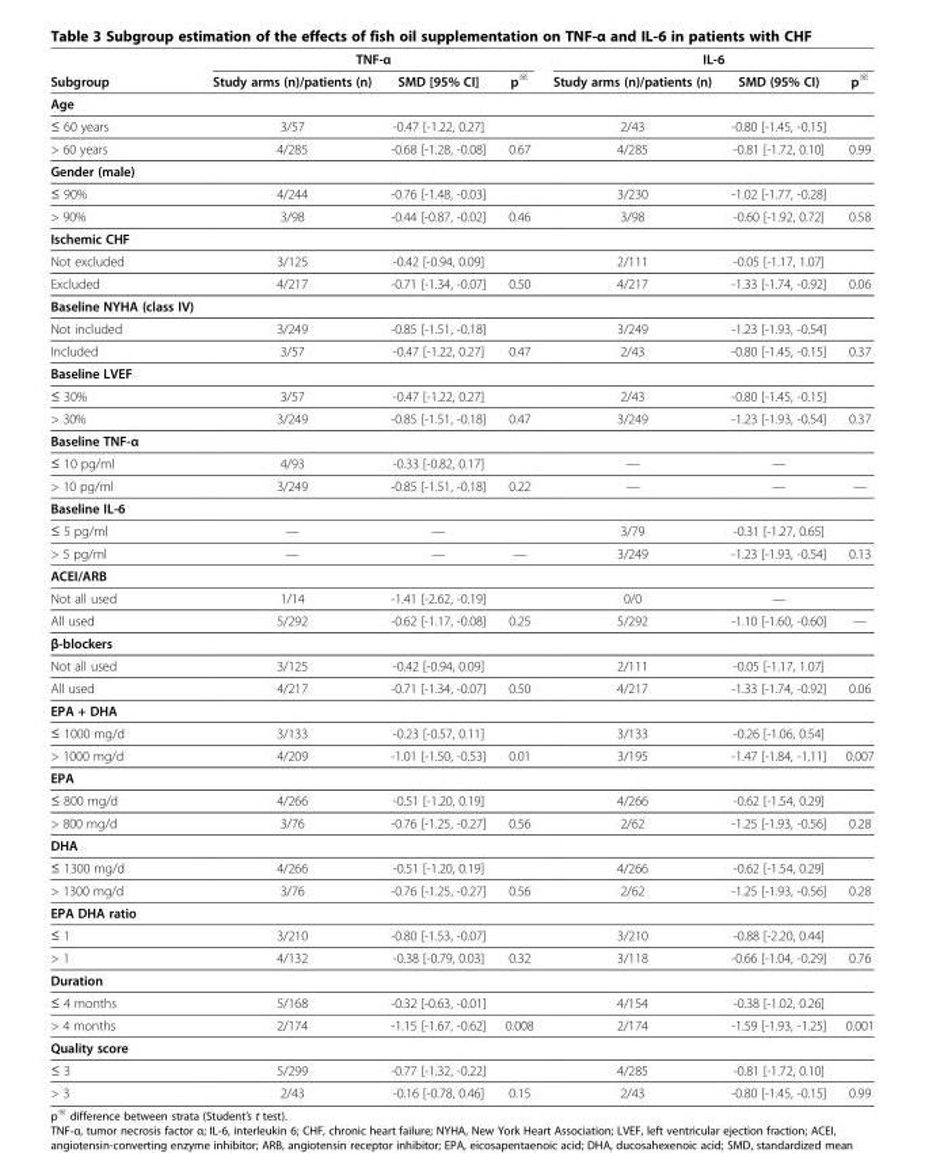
<table><thead><tr><td rowspan="2">Subgroup</td><td colspan="3">TNF-α</td><td colspan="3">IL-6</td></tr><tr><td>Study arms (n)/patients (n)</td><td>SMD [95% CI]</td><td>p<sup>※</sup></td><td>Study arms (n)/patients (n)</td><td>SMD (95% CI)</td><td>p<sup>※</sup></td></tr></thead><tbody><tr><td colspan="7">Age</td></tr><tr><td>≤ 60 years</td><td>3/57</td><td>-0.47 [-1.22, 0.27]</td><td></td><td>2/43</td><td>-0.80 [-1.45, -0.15]</td><td></td></tr><tr><td>&gt; 60 years</td><td>4/285</td><td>-0.68 [-1.28, -0.08]</td><td>0.67</td><td>4/285</td><td>-0.81 [-1.72, 0.10]</td><td>0.99</td></tr><tr><td colspan="7">Gender (male)</td></tr><tr><td>≤ 90%</td><td>4/244</td><td>-0.76 [-1.48, -0.03]</td><td></td><td>3/230</td><td>-1.02 [-1.77, -0.28]</td><td></td></tr><tr><td>&gt; 90%</td><td>3/98</td><td>-0.44 [-0.87, -0.02]</td><td>0.46</td><td>3/98</td><td>-0.60 [-1.92, 0.72]</td><td>0.58</td></tr><tr><td colspan="7">Ischemic CHF</td></tr><tr><td>Not excluded</td><td>3/125</td><td>-0.42 [-0.94, 0.09]</td><td></td><td>2/111</td><td>-0.05 [-1.17, 1.07]</td><td></td></tr><tr><td>Excluded</td><td>4/217</td><td>-0.71 [-1.34, -0.07]</td><td>0.50</td><td>4/217</td><td>-1.33 [-1.74, -0.92]</td><td>0.06</td></tr><tr><td colspan="7">Baseline NYHA (class IV)</td></tr><tr><td>Not included</td><td>3/249</td><td>-0.85 [-1.51, -0.18]</td><td></td><td>3/249</td><td>-1.23 [-1.93, -0.54]</td><td></td></tr><tr><td>Included</td><td>3/57</td><td>-0.47 [-1.22, 0.27]</td><td>0.47</td><td>2/43</td><td>-0.80 [-1.45, -0.15]</td><td>0.37</td></tr><tr><td colspan="7">Baseline LVEF</td></tr><tr><td>≤ 30%</td><td>3/57</td><td>-0.47 [-1.22, 0.27]</td><td></td><td>2/43</td><td>-0.80 [-1.45, -0.15]</td><td></td></tr><tr><td>&gt; 30%</td><td>3/249</td><td>-0.85 [-1.51, -0.18]</td><td>0.47</td><td>3/249</td><td>-1.23 [-1.93, -0.54]</td><td>0.37</td></tr><tr><td colspan="7">Baseline TNF-α</td></tr><tr><td>≤ 10 pg/ml</td><td>4/93</td><td>-0.33 [-0.82, 0.17]</td><td></td><td>—</td><td>—</td><td></td></tr><tr><td>&gt; 10 pg/ml</td><td>3/249</td><td>-0.85 [-1.51, -0.18]</td><td>0.22</td><td>—</td><td>—</td><td>—</td></tr><tr><td colspan="7">Baseline IL-6</td></tr><tr><td>≤ 5 pg/ml</td><td>—</td><td>—</td><td></td><td>3/79</td><td>-0.31 [-1.27, 0.65]</td><td></td></tr><tr><td>&gt; 5 pg/ml</td><td>—</td><td>—</td><td>—</td><td>3/249</td><td>-1.23 [-1.93, -0.54]</td><td>0.13</td></tr><tr><td colspan="7">ACEI/ARB</td></tr><tr><td>Not all used</td><td>1/14</td><td>-1.41 [-2.62, -0.19]</td><td></td><td>0/0</td><td>—</td><td></td></tr><tr><td>All used</td><td>5/292</td><td>-0.62 [-1.17, -0.08]</td><td>0.25</td><td>5/292</td><td>-1.10 [-1.60, -0.60]</td><td>—</td></tr><tr><td colspan="7">β-blockers</td></tr><tr><td>Not all used</td><td>3/125</td><td>-0.42 [-0.94, 0.09]</td><td></td><td>2/111</td><td>-0.05 [-1.17, 1.07]</td><td></td></tr><tr><td>All used</td><td>4/217</td><td>-0.71 [-1.34, -0.07]</td><td>0.50</td><td>4/217</td><td>-1.33 [-1.74, -0.92]</td><td>0.06</td></tr><tr><td colspan="7">EPA + DHA</td></tr><tr><td>≤ 1000 mg/d</td><td>3/133</td><td>-0.23 [-0.57, 0.11]</td><td></td><td>3/133</td><td>-0.26 [-1.06, 0.54]</td><td></td></tr><tr><td>&gt; 1000 mg/d</td><td>4/209</td><td>-1.01 [-1.50, -0.53]</td><td>0.01</td><td>3/195</td><td>-1.47 [-1.84, -1.11]</td><td>0.007</td></tr><tr><td colspan="7">EPA</td></tr><tr><td>≤ 800 mg/d</td><td>4/266</td><td>-0.51 [-1.20, 0.19]</td><td></td><td>4/266</td><td>-0.62 [-1.54, 0.29]</td><td></td></tr><tr><td>&gt; 800 mg/d</td><td>3/76</td><td>-0.76 [-1.25, -0.27]</td><td>0.56</td><td>2/62</td><td>-1.25 [-1.93, -0.56]</td><td>0.28</td></tr><tr><td colspan="7">DHA</td></tr><tr><td>≤ 1300 mg/d</td><td>4/266</td><td>-0.51 [-1.20, 0.19]</td><td></td><td>4/266</td><td>-0.62 [-1.54, 0.29]</td><td></td></tr><tr><td>&gt; 1300 mg/d</td><td>3/76</td><td>-0.76 [-1.25, -0.27]</td><td>0.56</td><td>2/62</td><td>-1.25 [-1.93, -0.56]</td><td>0.28</td></tr><tr><td colspan="7">EPA DHA ratio</td></tr><tr><td>≤ 1</td><td>3/210</td><td>-0.80 [-1.53, -0.07]</td><td></td><td>3/210</td><td>-0.88 [-2.20, 0.44]</td><td></td></tr><tr><td>&gt; 1</td><td>4/132</td><td>-0.38 [-0.79, 0.03]</td><td>0.32</td><td>3/118</td><td>-0.66 [-1.04, -0.29]</td><td>0.76</td></tr><tr><td colspan="7">Duration</td></tr><tr><td>≤ 4 months</td><td>5/168</td><td>-0.32 [-0.63, -0.01]</td><td></td><td>4/154</td><td>-0.38 [-1.02, 0.26]</td><td></td></tr><tr><td>&gt; 4 months</td><td>2/174</td><td>-1.15 [-1.67, -0.62]</td><td>0.008</td><td>2/174</td><td>-1.59 [-1.93, -1.25]</td><td>0.001</td></tr><tr><td colspan="7">Quality score</td></tr><tr><td>≤ 3</td><td>5/299</td><td>-0.77 [-1.32, -0.22]</td><td></td><td>4/285</td><td>-0.81 [-1.72, 0.10]</td><td></td></tr><tr><td>&gt; 3</td><td>2/43</td><td>-0.16 [-0.78, 0.46]</td><td>0.15</td><td>2/43</td><td>-0.80 [-1.45, -0.15]</td><td>0.99</td></tr></tbody></table>